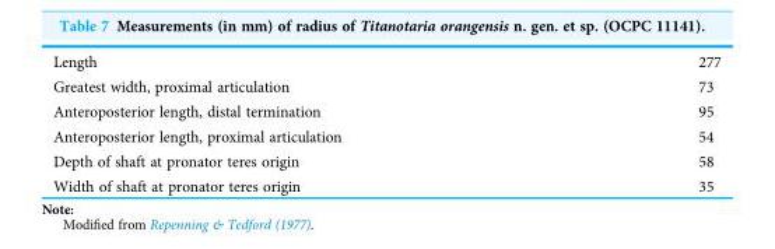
<table><tbody><tr><td>Length</td><td>277</td></tr><tr><td>Greatest width, proximal articulation</td><td>73</td></tr><tr><td>Anteroposterior length, distal termination</td><td>95</td></tr><tr><td>Anteroposterior length, proximal articulation</td><td>54</td></tr><tr><td>Depth of shaft at pronator teres origin</td><td>58</td></tr><tr><td>Width of shaft at pronator teres origin</td><td>35</td></tr></tbody></table>